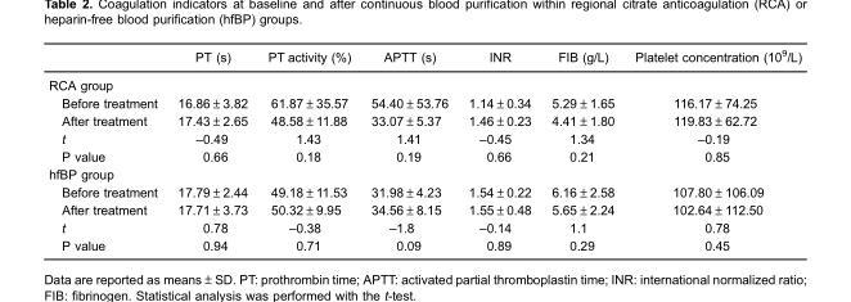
<table><thead><tr><td></td><td>PT (s)</td><td>PT activity (%)</td><td>APTT (s)</td><td>INR</td><td>FIB (g/L)</td><td>Platelet concentration (10<sup>9</sup>/L)</td></tr></thead><tbody><tr><td colspan="7">RCA group</td></tr><tr><td>Before treatment</td><td>16.86±3.82</td><td>61.87±35.57</td><td>54.40±53.76</td><td>1.14±0.34</td><td>5.29±1.65</td><td>116.17±74.25</td></tr><tr><td>After treatment</td><td>17.43±2.65</td><td>48.58±11.88</td><td>33.07±5.37</td><td>1.46±0.23</td><td>4.41±1.80</td><td>119.83±62.72</td></tr><tr><td>t</td><td>–0.49</td><td>1.43</td><td>1.41</td><td>–0.45</td><td>1.34</td><td>–0.19</td></tr><tr><td>P value</td><td>0.66</td><td>0.18</td><td>0.19</td><td>0.66</td><td>0.21</td><td>0.85</td></tr><tr><td colspan="7">hfBP group</td></tr><tr><td>Before treatment</td><td>17.79±2.44</td><td>49.18±11.53</td><td>31.98±4.23</td><td>1.54±0.22</td><td>6.16±2.58</td><td>107.80±106.09</td></tr><tr><td>After treatment</td><td>17.71±3.73</td><td>50.32±9.95</td><td>34.56±8.15</td><td>1.55±0.48</td><td>5.65±2.24</td><td>102.64±112.50</td></tr><tr><td>t</td><td>0.78</td><td>–0.38</td><td>–1.8</td><td>–0.14</td><td>1.1</td><td>0.78</td></tr><tr><td>P value</td><td>0.94</td><td>0.71</td><td>0.09</td><td>0.89</td><td>0.29</td><td>0.45</td></tr></tbody></table>